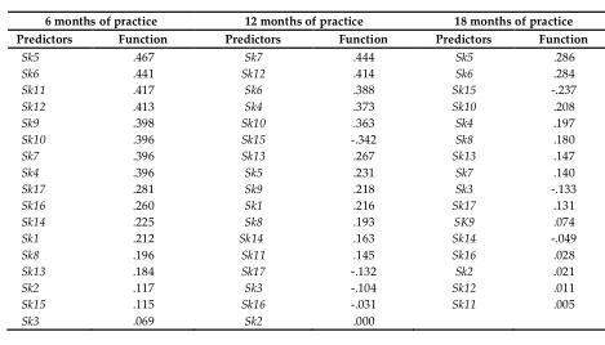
<table><thead><tr><td colspan="2">6 months of practice</td><td colspan="2">12 months of practice</td><td colspan="2">18 months of practice</td></tr><tr><td>Predictors</td><td>Function</td><td>Predictors</td><td>Function</td><td>Predictors</td><td>Function</td></tr></thead><tbody><tr><td>Sk5</td><td>.467</td><td>Sk7</td><td>.444</td><td>Sk5</td><td>.286</td></tr><tr><td>Sk6</td><td>.441</td><td>Sk12</td><td>.414</td><td>Sk6</td><td>.284</td></tr><tr><td>Sk11</td><td>.417</td><td>Sk6</td><td>.388</td><td>Sk15</td><td>-.237</td></tr><tr><td>Sk12</td><td>.413</td><td>Sk4</td><td>.373</td><td>Sk10</td><td>.208</td></tr><tr><td>Sk9</td><td>.398</td><td>Sk10</td><td>.363</td><td>Sk4</td><td>.197</td></tr><tr><td>Sk10</td><td>.396</td><td>Sk15</td><td>-.342</td><td>Sk8</td><td>.180</td></tr><tr><td>Sk7</td><td>.396</td><td>Sk13</td><td>.267</td><td>Sk13</td><td>.147</td></tr><tr><td>Sk4</td><td>.396</td><td>Sk5</td><td>.231</td><td>Sk7</td><td>.140</td></tr><tr><td>Sk17</td><td>.281</td><td>Sk9</td><td>.218</td><td>Sk3</td><td>-.133</td></tr><tr><td>Sk16</td><td>.260</td><td>Sk1</td><td>.216</td><td>Sk17</td><td>.131</td></tr><tr><td>Sk14</td><td>.225</td><td>Sk8</td><td>.193</td><td>SK9</td><td>.074</td></tr><tr><td>Sk1</td><td>.212</td><td>Sk14</td><td>.163</td><td>Sk14</td><td>-.049</td></tr><tr><td>Sk8</td><td>.196</td><td>Sk11</td><td>.145</td><td>Sk16</td><td>.028</td></tr><tr><td>Sk13</td><td>.184</td><td>Sk17</td><td>-.132</td><td>Sk2</td><td>.021</td></tr><tr><td>Sk2</td><td>.117</td><td>Sk3</td><td>-.104</td><td>Sk12</td><td>.011</td></tr><tr><td>Sk15</td><td>.115</td><td>Sk16</td><td>-.031</td><td>Sk11</td><td>.005</td></tr><tr><td>Sk3</td><td>.069</td><td>Sk2</td><td>.000</td><td></td><td></td></tr></tbody></table>